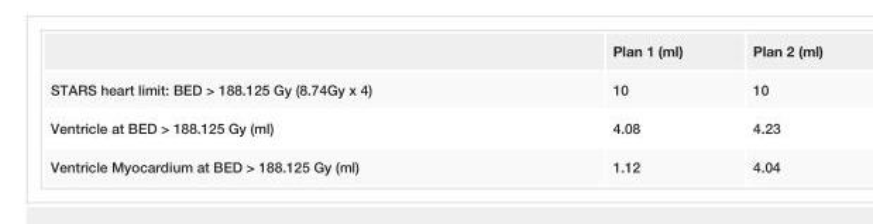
<table><thead><tr><td></td><td>Plan 1 (ml)</td><td>Plan 2 (ml)</td></tr></thead><tbody><tr><td>STARS heart limit: BED &gt; 188.125 Gy (8.74Gy x 4)</td><td>10</td><td>10</td></tr><tr><td>Ventricle at BED &gt; 188.125 Gy (ml)</td><td>4.08</td><td>4.23</td></tr><tr><td>Ventricle Myocardium at BED &gt; 188.125 Gy (ml)</td><td>1.12</td><td>4.04</td></tr></tbody></table>